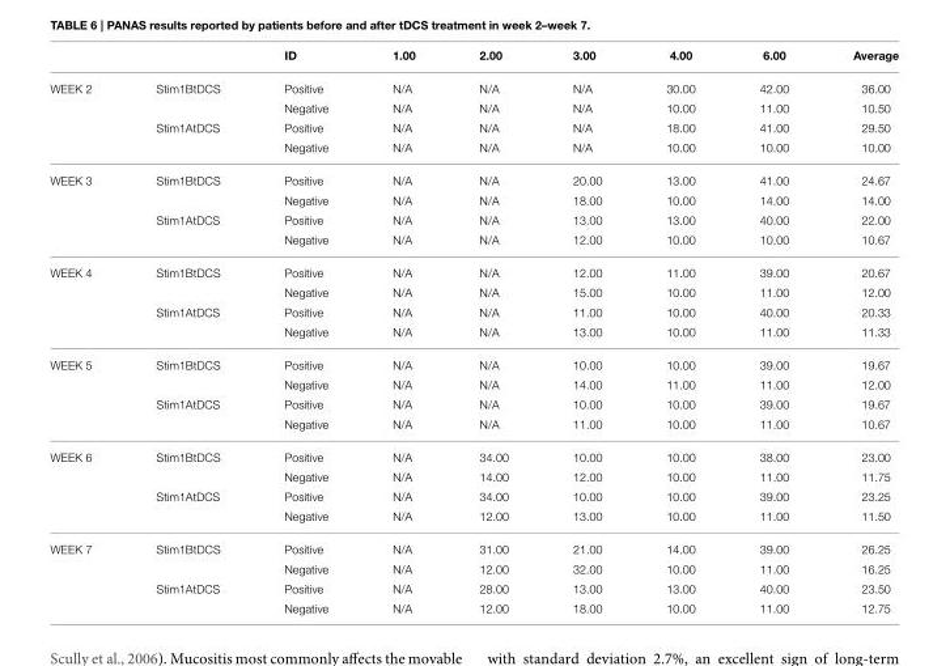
<table><thead><tr><td></td><td></td><td>ID</td><td>1.00</td><td>2.00</td><td>3.00</td><td>4.00</td><td>6.00</td><td>Average</td></tr></thead><tbody><tr><td rowspan="4">WEEK 2</td><td>Stim1BtDCS</td><td>Positive</td><td>N/A</td><td>N/A</td><td>N/A</td><td>30.00</td><td>42.00</td><td>36.00</td></tr><tr><td></td><td>Negative</td><td>N/A</td><td>N/A</td><td>N/A</td><td>10.00</td><td>11.00</td><td>10.50</td></tr><tr><td>Stim1AtDCS</td><td>Positive</td><td>N/A</td><td>N/A</td><td>N/A</td><td>18.00</td><td>41.00</td><td>29.50</td></tr><tr><td></td><td>Negative</td><td>N/A</td><td>N/A</td><td>N/A</td><td>10.00</td><td>10.00</td><td>10.00</td></tr><tr><td rowspan="4">WEEK 3</td><td>Stim1BtDCS</td><td>Positive</td><td>N/A</td><td>N/A</td><td>20.00</td><td>13.00</td><td>41.00</td><td>24.67</td></tr><tr><td></td><td>Negative</td><td>N/A</td><td>N/A</td><td>18.00</td><td>10.00</td><td>14.00</td><td>14.00</td></tr><tr><td>Stim1AtDCS</td><td>Positive</td><td>N/A</td><td>N/A</td><td>13.00</td><td>13.00</td><td>40.00</td><td>22.00</td></tr><tr><td></td><td>Negative</td><td>N/A</td><td>N/A</td><td>12.00</td><td>10.00</td><td>10.00</td><td>10.67</td></tr><tr><td rowspan="4">WEEK 4</td><td>Stim1BtDCS</td><td>Positive</td><td>N/A</td><td>N/A</td><td>12.00</td><td>11.00</td><td>39.00</td><td>20.67</td></tr><tr><td></td><td>Negative</td><td>N/A</td><td>N/A</td><td>15.00</td><td>10.00</td><td>11.00</td><td>12.00</td></tr><tr><td>Stim1AtDCS</td><td>Positive</td><td>N/A</td><td>N/A</td><td>11.00</td><td>10.00</td><td>40.00</td><td>20.33</td></tr><tr><td></td><td>Negative</td><td>N/A</td><td>N/A</td><td>13.00</td><td>10.00</td><td>11.00</td><td>11.33</td></tr><tr><td rowspan="4">WEEK 5</td><td>Stim1BtDCS</td><td>Positive</td><td>N/A</td><td>N/A</td><td>10.00</td><td>10.00</td><td>39.00</td><td>19.67</td></tr><tr><td></td><td>Negative</td><td>N/A</td><td>N/A</td><td>14.00</td><td>11.00</td><td>11.00</td><td>12.00</td></tr><tr><td>Stim1AtDCS</td><td>Positive</td><td>N/A</td><td>N/A</td><td>10.00</td><td>10.00</td><td>39.00</td><td>19.67</td></tr><tr><td></td><td>Negative</td><td>N/A</td><td>N/A</td><td>11.00</td><td>10.00</td><td>11.00</td><td>10.67</td></tr><tr><td rowspan="4">WEEK 6</td><td>Stim1BtDCS</td><td>Positive</td><td>N/A</td><td>34.00</td><td>10.00</td><td>10.00</td><td>38.00</td><td>23.00</td></tr><tr><td></td><td>Negative</td><td>N/A</td><td>14.00</td><td>12.00</td><td>10.00</td><td>11.00</td><td>11.75</td></tr><tr><td>Stim1AtDCS</td><td>Positive</td><td>N/A</td><td>34.00</td><td>10.00</td><td>10.00</td><td>39.00</td><td>23.25</td></tr><tr><td></td><td>Negative</td><td>N/A</td><td>12.00</td><td>13.00</td><td>10.00</td><td>11.00</td><td>11.50</td></tr><tr><td rowspan="4">WEEK 7</td><td>Stim1BtDCS</td><td>Positive</td><td>N/A</td><td>31.00</td><td>21.00</td><td>14.00</td><td>39.00</td><td>26.25</td></tr><tr><td></td><td>Negative</td><td>N/A</td><td>12.00</td><td>32.00</td><td>10.00</td><td>11.00</td><td>16.25</td></tr><tr><td>Stim1AtDCS</td><td>Positive</td><td>N/A</td><td>28.00</td><td>13.00</td><td>13.00</td><td>40.00</td><td>23.50</td></tr><tr><td></td><td>Negative</td><td>N/A</td><td>12.00</td><td>18.00</td><td>10.00</td><td>11.00</td><td>12.75</td></tr></tbody></table>